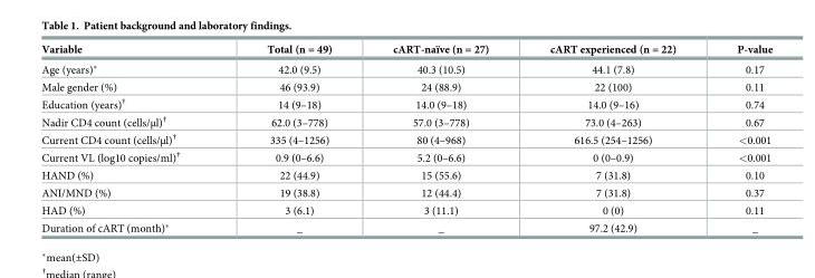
<table><thead><tr><td>Variable</td><td>Total (n = 49)</td><td>cART-naïve (n = 27)</td><td>cART experienced (n = 22)</td><td>P-value</td></tr></thead><tbody><tr><td>Age (years)*</td><td>42.0 (9.5)</td><td>40.3 (10.5)</td><td>44.1 (7.8)</td><td>0.17</td></tr><tr><td>Male gender (%)</td><td>46 (93.9)</td><td>24 (88.9)</td><td>22 (100)</td><td>0.11</td></tr><tr><td>Education (years)<sup>†</sup></td><td>14 (9–18)</td><td>14.0 (9–18)</td><td>14.0 (9–16)</td><td>0.74</td></tr><tr><td>Nadir CD4 count (cells/μl)<sup>†</sup></td><td>62.0 (3–778)</td><td>57.0 (3–778)</td><td>73.0 (4–263)</td><td>0.67</td></tr><tr><td>Current CD4 count (cells/μl)<sup>†</sup></td><td>335 (4–1256)</td><td>80 (4–968)</td><td>616.5 (254–1256)</td><td>&lt;0.001</td></tr><tr><td>Current VL (log10 copies/ml)<sup>†</sup></td><td>0.9 (0–6.6)</td><td>5.2 (0–6.6)</td><td>0 (0–0.9)</td><td>&lt;0.001</td></tr><tr><td>HAND (%)</td><td>22 (44.9)</td><td>15 (55.6)</td><td>7 (31.8)</td><td>0.10</td></tr><tr><td>ANI/MND (%)</td><td>19 (38.8)</td><td>12 (44.4)</td><td>7 (31.8)</td><td>0.37</td></tr><tr><td>HAD (%)</td><td>3 (6.1)</td><td>3 (11.1)</td><td>0 (0)</td><td>0.11</td></tr><tr><td>Duration of cART (month)*</td><td>_</td><td>_</td><td>97.2 (42.9)</td><td>_</td></tr></tbody></table>